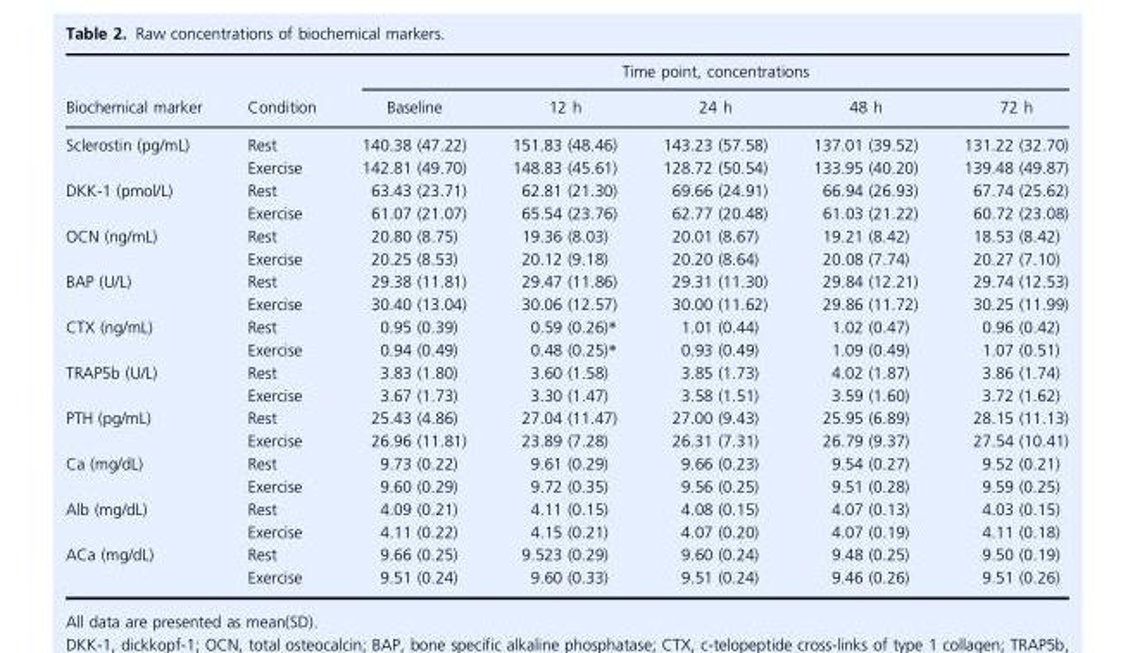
<table><thead><tr><td rowspan="2">Biochemical marker</td><td rowspan="2">Condition</td><td colspan="5">Time point, concentrations</td></tr><tr><td>Baseline</td><td>12 h</td><td>24 h</td><td>48 h</td><td>72 h</td></tr></thead><tbody><tr><td rowspan="2">Sclerostin (pg/mL)</td><td>Rest</td><td>140.38 (47.22)</td><td>151.83 (48.46)</td><td>143.23 (57.58)</td><td>137.01 (39.52)</td><td>131.22 (32.70)</td></tr><tr><td>Exercise</td><td>142.81 (49.70)</td><td>148.83 (45.61)</td><td>128.72 (50.54)</td><td>133.95 (40.20)</td><td>139.48 (49.87)</td></tr><tr><td rowspan="2">DKK-1 (pmol/L)</td><td>Rest</td><td>63.43 (23.71)</td><td>62.81 (21.30)</td><td>69.66 (24.91)</td><td>66.94 (26.93)</td><td>67.74 (25.62)</td></tr><tr><td>Exercise</td><td>61.07 (21.07)</td><td>65.54 (23.76)</td><td>62.77 (20.48)</td><td>61.03 (21.22)</td><td>60.72 (23.08)</td></tr><tr><td rowspan="2">OCN (ng/mL)</td><td>Rest</td><td>20.80 (8.75)</td><td>19.36 (8.03)</td><td>20.01 (8.67)</td><td>19.21 (8.42)</td><td>18.53 (8.42)</td></tr><tr><td>Exercise</td><td>20.25 (8.53)</td><td>20.12 (9.18)</td><td>20.20 (8.64)</td><td>20.08 (7.74)</td><td>20.27 (7.10)</td></tr><tr><td rowspan="2">BAP (U/L)</td><td>Rest</td><td>29.38 (11.81)</td><td>29.47 (11.86)</td><td>29.31 (11.30)</td><td>29.84 (12.21)</td><td>29.74 (12.53)</td></tr><tr><td>Exercise</td><td>30.40 (13.04)</td><td>30.06 (12.57)</td><td>30.00 (11.62)</td><td>29.86 (11.72)</td><td>30.25 (11.99)</td></tr><tr><td rowspan="2">CTX (ng/mL)</td><td>Rest</td><td>0.95 (0.39)</td><td>0.59 (0.26)*</td><td>1.01 (0.44)</td><td>1.02 (0.47)</td><td>0.96 (0.42)</td></tr><tr><td>Exercise</td><td>0.94 (0.49)</td><td>0.48 (0.25)*</td><td>0.93 (0.49)</td><td>1.09 (0.49)</td><td>1.07 (0.51)</td></tr><tr><td rowspan="2">TRAP5b (U/L)</td><td>Rest</td><td>3.83 (1.80)</td><td>3.60 (1.58)</td><td>3.85 (1.73)</td><td>4.02 (1.87)</td><td>3.86 (1.74)</td></tr><tr><td>Exercise</td><td>3.67 (1.73)</td><td>3.30 (1.47)</td><td>3.58 (1.51)</td><td>3.59 (1.60)</td><td>3.72 (1.62)</td></tr><tr><td rowspan="2">PTH (pg/mL)</td><td>Rest</td><td>25.43 (4.86)</td><td>27.04 (11.47)</td><td>27.00 (9.43)</td><td>25.95 (6.89)</td><td>28.15 (11.13)</td></tr><tr><td>Exercise</td><td>26.96 (11.81)</td><td>23.89 (7.28)</td><td>26.31 (7.31)</td><td>26.79 (9.37)</td><td>27.54 (10.41)</td></tr><tr><td rowspan="2">Ca (mg/dL)</td><td>Rest</td><td>9.73 (0.22)</td><td>9.61 (0.29)</td><td>9.66 (0.23)</td><td>9.54 (0.27)</td><td>9.52 (0.21)</td></tr><tr><td>Exercise</td><td>9.60 (0.29)</td><td>9.72 (0.35)</td><td>9.56 (0.25)</td><td>9.51 (0.28)</td><td>9.59 (0.25)</td></tr><tr><td rowspan="2">Alb (mg/dL)</td><td>Rest</td><td>4.09 (0.21)</td><td>4.11 (0.15)</td><td>4.08 (0.15)</td><td>4.07 (0.13)</td><td>4.03 (0.15)</td></tr><tr><td>Exercise</td><td>4.11 (0.22)</td><td>4.15 (0.21)</td><td>4.07 (0.20)</td><td>4.07 (0.19)</td><td>4.11 (0.18)</td></tr><tr><td rowspan="2">ACa (mg/dL)</td><td>Rest</td><td>9.66 (0.25)</td><td>9.523 (0.29)</td><td>9.60 (0.24)</td><td>9.48 (0.25)</td><td>9.50 (0.19)</td></tr><tr><td>Exercise</td><td>9.51 (0.24)</td><td>9.60 (0.33)</td><td>9.51 (0.24)</td><td>9.46 (0.26)</td><td>9.51 (0.26)</td></tr></tbody></table>